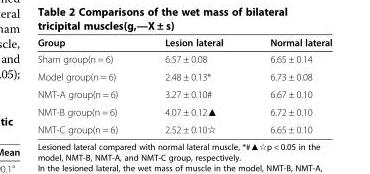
<table><thead><tr><td>Group</td><td>Lesion lateral</td><td>Normal lateral</td></tr></thead><tbody><tr><td>Sham group(n = 6)</td><td>6.57 ± 0.08</td><td>6.65 ± 0.14</td></tr><tr><td>Model group(n = 6)</td><td>2.48 ± 0.13*</td><td>6.73 ± 0.08</td></tr><tr><td>NMT-A group(n = 6)</td><td>3.27 ± 0.10#</td><td>6.67 ± 0.10</td></tr><tr><td>NMT-B group(n = 6)</td><td>4.07 ± 0.12▲</td><td>6.72 ± 0.10</td></tr><tr><td>NMT-C group(n = 6)</td><td>2.52 ± 0.10☆</td><td>6.65 ± 0.10</td></tr></tbody></table>